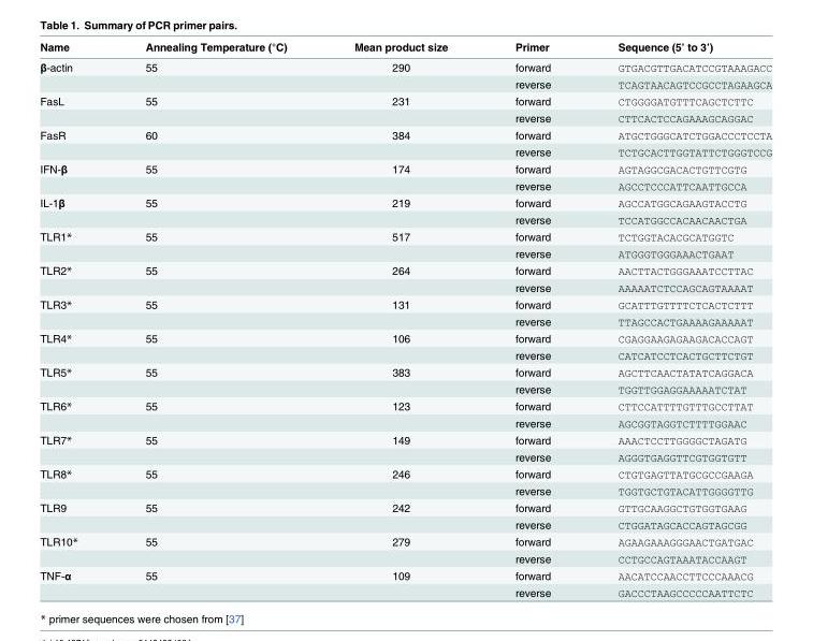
<table><thead><tr><td>Name</td><td>Annealing Temperature (°C)</td><td>Mean product size</td><td>Primer</td><td>Sequence (5’ to 3’)</td></tr></thead><tbody><tr><td rowspan="2">β-actin</td><td>55</td><td>290</td><td>forward</td><td>GTGACGTTGACATCCGTAAAGACC</td></tr><tr><td></td><td></td><td>reverse</td><td>TCAGTAACAGTCCGCCTAGAAGCA</td></tr><tr><td rowspan="2">FasL</td><td>55</td><td>231</td><td>forward</td><td>CTGGGGATGTTTCAGCTCTTC</td></tr><tr><td></td><td></td><td>reverse</td><td>CTTCACTCCAGAAAGCAGGAC</td></tr><tr><td rowspan="2">FasR</td><td>60</td><td>384</td><td>forward</td><td>ATGCTGGGCATCTGGACCCTCCTA</td></tr><tr><td></td><td></td><td>reverse</td><td>TCTGCACTTGGTATTCTGGGTCCG</td></tr><tr><td rowspan="2">IFN-β</td><td>55</td><td>174</td><td>forward</td><td>AGTAGGCGACACTGTTCGTG</td></tr><tr><td></td><td></td><td>reverse</td><td>AGCCTCCCATTCAATTGCCA</td></tr><tr><td rowspan="2">IL-1β</td><td>55</td><td>219</td><td>forward</td><td>AGCCATGGCAGAAGTACCTG</td></tr><tr><td></td><td></td><td>reverse</td><td>TCCATGGCCACAACAACTGA</td></tr><tr><td rowspan="2">TLR1*</td><td>55</td><td>517</td><td>forward</td><td>TCTGGTACACGCATGGTC</td></tr><tr><td></td><td></td><td>reverse</td><td>ATGGGTGGGAAACTGAAT</td></tr><tr><td rowspan="2">TLR2*</td><td>55</td><td>264</td><td>forward</td><td>AACTTACTGGGAAATCCTTAC</td></tr><tr><td></td><td></td><td>reverse</td><td>AAAAATCTCCAGCAGTAAAAT</td></tr><tr><td rowspan="2">TLR3*</td><td>55</td><td>131</td><td>forward</td><td>GCATTTGTTTTCTCACTCTTT</td></tr><tr><td></td><td></td><td>reverse</td><td>TTAGCCACTGAAAAGAAAAAT</td></tr><tr><td rowspan="2">TLR4*</td><td>55</td><td>106</td><td>forward</td><td>CGAGGAAGAGAAGACACCAGT</td></tr><tr><td></td><td></td><td>reverse</td><td>CATCATCCTCACTGCTTCTGT</td></tr><tr><td rowspan="2">TLR5*</td><td>55</td><td>383</td><td>forward</td><td>AGCTTCAACTATATCAGGACA</td></tr><tr><td></td><td></td><td>reverse</td><td>TGGTTGGAGGAAAAATCTAT</td></tr><tr><td rowspan="2">TLR6*</td><td>55</td><td>123</td><td>forward</td><td>CTTCCATTTTGTTTGCCTTAT</td></tr><tr><td></td><td></td><td>reverse</td><td>AGCGGTAGGTCTTTTGGAAC</td></tr><tr><td rowspan="2">TLR7*</td><td>55</td><td>149</td><td>forward</td><td>AAACTCCTTGGGGCTAGATG</td></tr><tr><td></td><td></td><td>reverse</td><td>AGGGTGAGGTTCGTGGTGTT</td></tr><tr><td rowspan="2">TLR8*</td><td>55</td><td>246</td><td>forward</td><td>CTGTGAGTTATGCGCCGAAGA</td></tr><tr><td></td><td></td><td>reverse</td><td>TGGTGCTGTACATTGGGGTTG</td></tr><tr><td rowspan="2">TLR9</td><td>55</td><td>242</td><td>forward</td><td>GTTGCAAGGCTGTGGTGAAG</td></tr><tr><td></td><td></td><td>reverse</td><td>CTGGATAGCACCAGTAGCGG</td></tr><tr><td rowspan="2">TLR10*</td><td>55</td><td>279</td><td>forward</td><td>AGAAGAAAGGGAACTGATGAC</td></tr><tr><td></td><td></td><td>reverse</td><td>CCTGCCAGTAAATACCAAGT</td></tr><tr><td rowspan="2">TNF-α</td><td>55</td><td>109</td><td>forward</td><td>AACATCCAACCTTCCCAAACG</td></tr><tr><td></td><td></td><td>reverse</td><td>GACCCTAAGCCCCCAATTCTC</td></tr></tbody></table>